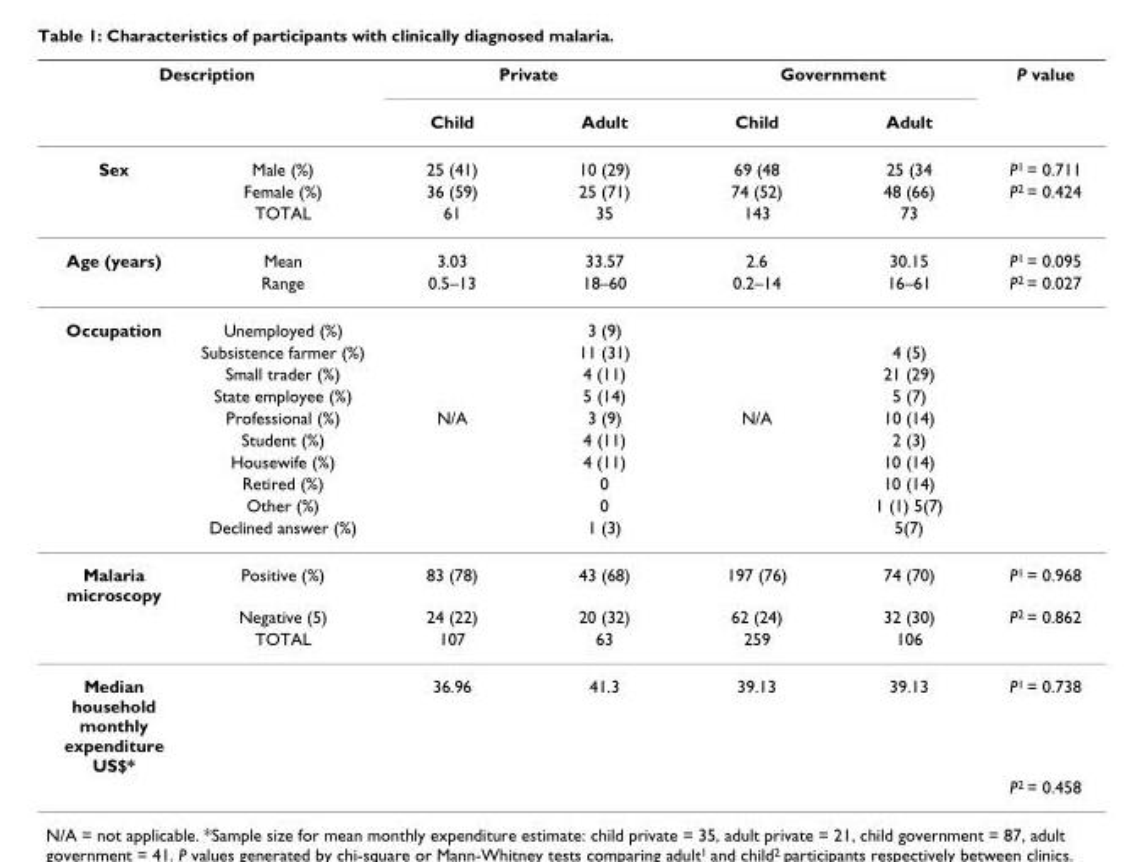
<table><thead><tr><td colspan="2">Description</td><td colspan="2">Private</td><td colspan="2">Government</td><td rowspan="2">P value</td></tr><tr><td></td><td></td><td>Child</td><td>Adult</td><td>Child</td><td>Adult</td></tr></thead><tbody><tr><td rowspan="3">Sex</td><td>Male (%)</td><td>25 (41)</td><td>10 (29)</td><td>69 (48</td><td>25 (34</td><td>P<sup>1</sup> = 0.711</td></tr><tr><td>Female (%)</td><td>36 (59)</td><td>25 (71)</td><td>74 (52)</td><td>48 (66)</td><td>P<sup>2</sup> = 0.424</td></tr><tr><td>TOTAL</td><td>61</td><td>35</td><td>143</td><td>73</td><td></td></tr><tr><td rowspan="2">Age (years)</td><td>Mean</td><td>3.03</td><td>33.57</td><td>2.6</td><td>30.15</td><td>P<sup>1</sup> = 0.095</td></tr><tr><td>Range</td><td>0.5–13</td><td>18–60</td><td>0.2–14</td><td>16–61</td><td>P<sup>2</sup> = 0.027</td></tr><tr><td rowspan="10">Occupation</td><td>Unemployed (%)</td><td></td><td>3 (9)</td><td></td><td></td><td></td></tr><tr><td>Subsistence farmer (%)</td><td></td><td>11 (31)</td><td></td><td>4 (5)</td><td></td></tr><tr><td>Small trader (%)</td><td></td><td>4 (11)</td><td></td><td>21 (29)</td><td></td></tr><tr><td>State employee (%)</td><td></td><td>5 (14)</td><td></td><td>5 (7)</td><td></td></tr><tr><td>Professional (%)</td><td>N/A</td><td>3 (9)</td><td>N/A</td><td>10 (14)</td><td></td></tr><tr><td>Student (%)</td><td></td><td>4 (11)</td><td></td><td>2 (3)</td><td></td></tr><tr><td>Housewife (%)</td><td></td><td>4 (11)</td><td></td><td>10 (14)</td><td></td></tr><tr><td>Retired (%)</td><td></td><td>0</td><td></td><td>10 (14)</td><td></td></tr><tr><td>Other (%)</td><td></td><td>0</td><td></td><td>1 (1) 5(7)</td><td></td></tr><tr><td>Declined answer (%)</td><td></td><td>1 (3)</td><td></td><td>5(7)</td><td></td></tr><tr><td rowspan="3">Malaria microscopy</td><td>Positive (%)</td><td>83 (78)</td><td>43 (68)</td><td>197 (76)</td><td>74 (70)</td><td>P<sup>1</sup> = 0.968</td></tr><tr><td>Negative (5)</td><td>24 (22)</td><td>20 (32)</td><td>62 (24)</td><td>32 (30)</td><td>P<sup>2</sup> = 0.862</td></tr><tr><td>TOTAL</td><td>107</td><td>63</td><td>259</td><td>106</td><td></td></tr><tr><td rowspan="2">Median household monthly expenditure US$*</td><td></td><td>36.96</td><td>41.3</td><td>39.13</td><td>39.13</td><td>P<sup>1</sup> = 0.738</td></tr><tr><td></td><td></td><td></td><td></td><td></td><td>P<sup>2</sup> = 0.458</td></tr></tbody></table>